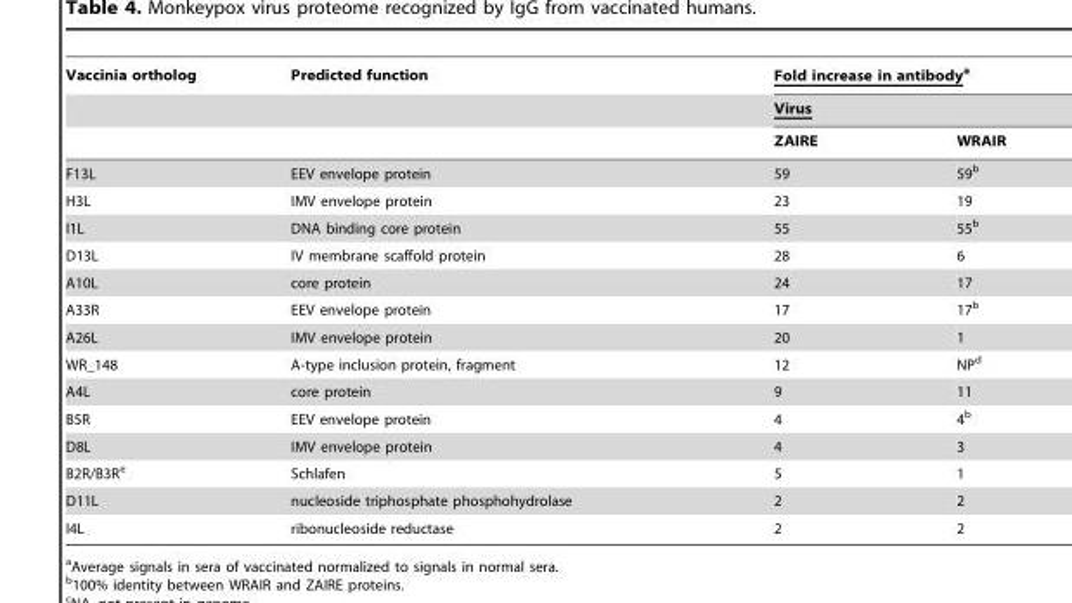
<table><thead><tr><td rowspan="3">Vaccinia ortholog</td><td rowspan="3">Predicted function</td><td rowspan="2" colspan="2">Fold increase in antibodya Virus</td></tr><tr></tr><tr><td>ZAIRE</td><td>WRAIR</td></tr></thead><tbody><tr><td>F13L</td><td>EEV envelope protein</td><td>59</td><td>59<sup>b</sup></td></tr><tr><td>H3L</td><td>IMV envelope protein</td><td>23</td><td>19</td></tr><tr><td>I1L</td><td>DNA binding core protein</td><td>55</td><td>55<sup>b</sup></td></tr><tr><td>D13L</td><td>IV membrane scaffold protein</td><td>28</td><td>6</td></tr><tr><td>A10L</td><td>core protein</td><td>24</td><td>17</td></tr><tr><td>A33R</td><td>EEV envelope protein</td><td>17</td><td>17<sup>b</sup></td></tr><tr><td>A26L</td><td>IMV envelope protein</td><td>20</td><td>1</td></tr><tr><td>WR_148</td><td>A-type inclusion protein, fragment</td><td>12</td><td>NP<sup>d</sup></td></tr><tr><td>A4L</td><td>core protein</td><td>9</td><td>11</td></tr><tr><td>B5R</td><td>EEV envelope protein</td><td>4</td><td>4<sup>b</sup></td></tr><tr><td>D8L</td><td>IMV envelope protein</td><td>4</td><td>3</td></tr><tr><td>B2R/B3R<sup>e</sup></td><td>Schlafen</td><td>5</td><td>1</td></tr><tr><td>D11L</td><td>nucleoside triphosphate phosphohydrolase</td><td>2</td><td>2</td></tr><tr><td>I4L</td><td>ribonucleoside reductase</td><td>2</td><td>2</td></tr></tbody></table>